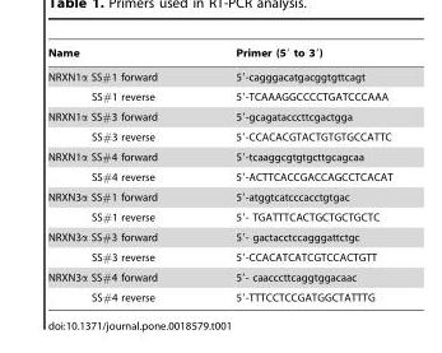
<table><thead><tr><td>Name</td><td>Primer (5′ to 3′)</td></tr></thead><tbody><tr><td>NRXN1α SS#1 forward</td><td>5′-cagggacatgacggtgttcagt</td></tr><tr><td>SS#1 reverse</td><td>5′-TCAAAGGCCCCTGATCCCAAA</td></tr><tr><td>NRXN1α SS#3 forward</td><td>5′-gcagatacccttcgactgga</td></tr><tr><td>SS#3 reverse</td><td>5′-CCACACGTACTGTGTGCCATTC</td></tr><tr><td>NRXN1α SS#4 forward</td><td>5′-tcaaggcgtgtgcttgcagcaa</td></tr><tr><td>SS#4 reverse</td><td>5′-ACTTCACCGACCAGCCTCACAT</td></tr><tr><td>NRXN3α SS#1 forward</td><td>5′-atggtcatcccacctgtgac</td></tr><tr><td>SS#1 reverse</td><td>5′- TGATTTCACTGCTGCTGCTC</td></tr><tr><td>NRXN3α SS#3 forward</td><td>5′- gactacctccagggattctgc</td></tr><tr><td>SS#3 reverse</td><td>5′-CCACATCATCGTCCACTGTT</td></tr><tr><td>NRXN3α SS#4 forward</td><td>5′- caacccttcaggtggacaac</td></tr><tr><td>SS#4 reverse</td><td>5′-TTTCCTCCGATGGCTATTTG</td></tr></tbody></table>